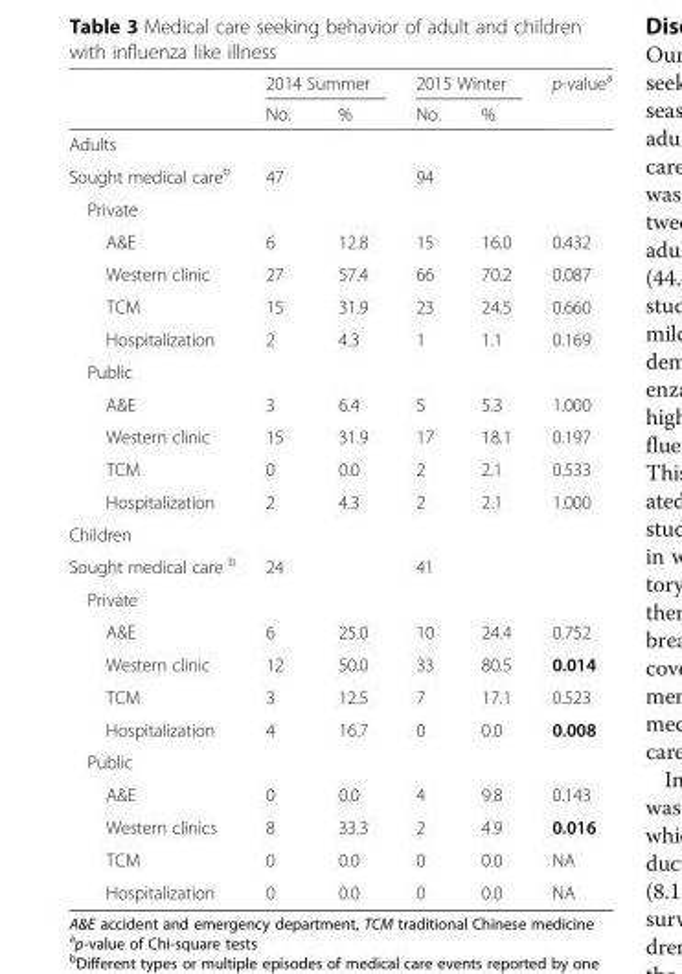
<table><thead><tr><td rowspan="2"></td><td colspan="2">2014 Summer</td><td colspan="2">2015 Winter</td><td rowspan="2">p-value<sup>a</sup></td></tr><tr><td>No.</td><td>%</td><td>No.</td><td>%</td></tr></thead><tbody><tr><td colspan="6">Adults</td></tr><tr><td>Sought medical care<sup>b</sup></td><td>47</td><td></td><td>94</td><td></td><td></td></tr><tr><td colspan="6">Private</td></tr><tr><td>A&amp;E</td><td>6</td><td>12.8</td><td>15</td><td>16.0</td><td>0.432</td></tr><tr><td>Western clinic</td><td>27</td><td>57.4</td><td>66</td><td>70.2</td><td>0.087</td></tr><tr><td>TCM</td><td>15</td><td>31.9</td><td>23</td><td>24.5</td><td>0.660</td></tr><tr><td>Hospitalization</td><td>2</td><td>4.3</td><td>1</td><td>1.1</td><td>0.169</td></tr><tr><td colspan="6">Public</td></tr><tr><td>A&amp;E</td><td>3</td><td>6.4</td><td>5</td><td>5.3</td><td>1.000</td></tr><tr><td>Western clinic</td><td>15</td><td>31.9</td><td>17</td><td>18.1</td><td>0.197</td></tr><tr><td>TCM</td><td>0</td><td>0.0</td><td>2</td><td>2.1</td><td>0.533</td></tr><tr><td>Hospitalization</td><td>2</td><td>4.3</td><td>2</td><td>2.1</td><td>1.000</td></tr><tr><td colspan="6">Children</td></tr><tr><td>Sought medical care <sup>b</sup></td><td>24</td><td></td><td>41</td><td></td><td></td></tr><tr><td colspan="6">Private</td></tr><tr><td>A&amp;E</td><td>6</td><td>25.0</td><td>10</td><td>24.4</td><td>0.752</td></tr><tr><td>Western clinic</td><td>12</td><td>50.0</td><td>33</td><td>80.5</td><td>0.014</td></tr><tr><td>TCM</td><td>3</td><td>12.5</td><td>7</td><td>17.1</td><td>0.523</td></tr><tr><td>Hospitalization</td><td>4</td><td>16.7</td><td>0</td><td>0.0</td><td>0.008</td></tr><tr><td colspan="6">Public</td></tr><tr><td>A&amp;E</td><td>0</td><td>0.0</td><td>4</td><td>9.8</td><td>0.143</td></tr><tr><td>Western clinics</td><td>8</td><td>33.3</td><td>2</td><td>4.9</td><td>0.016</td></tr><tr><td>TCM</td><td>0</td><td>0.0</td><td>0</td><td>0.0</td><td>NA</td></tr><tr><td>Hospitalization</td><td>0</td><td>0.0</td><td>0</td><td>0.0</td><td>NA</td></tr></tbody></table>